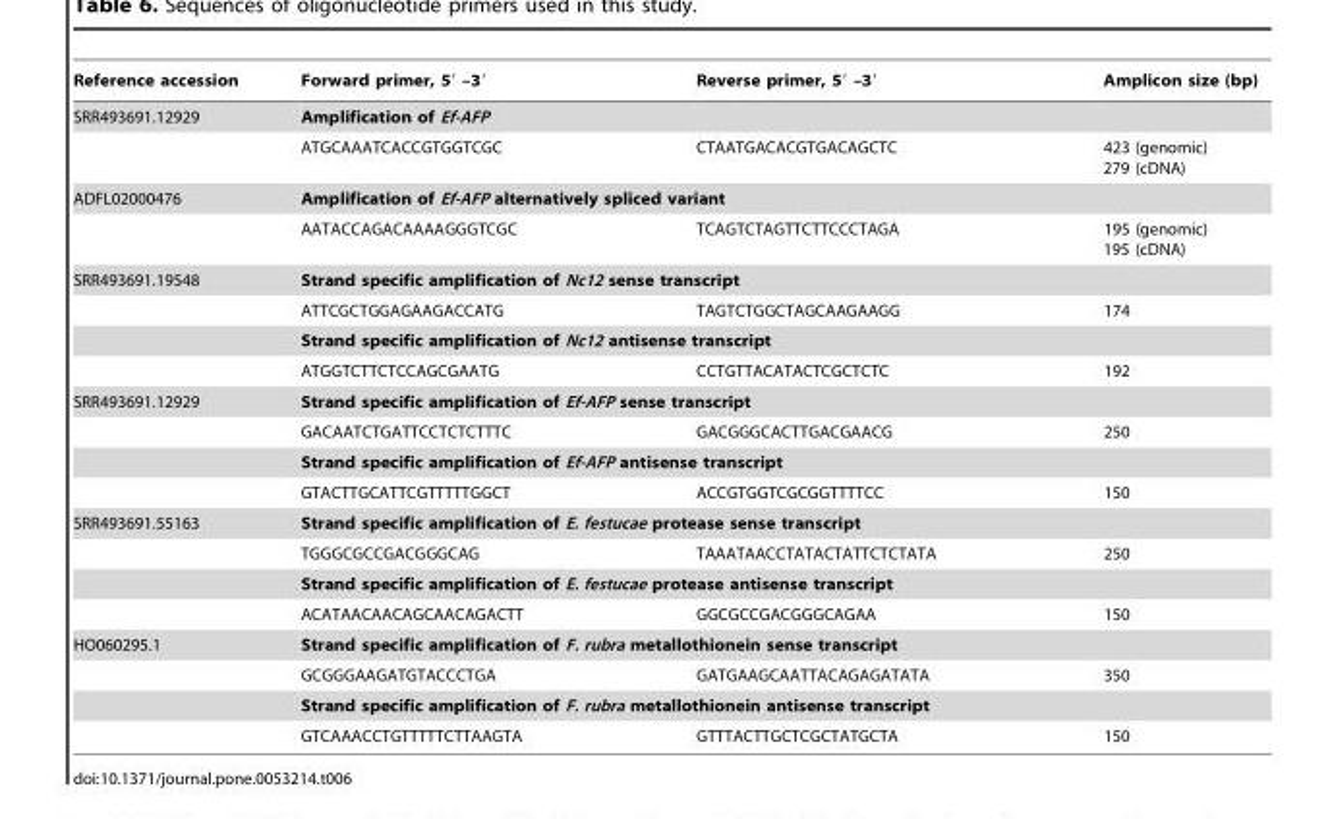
<table><thead><tr><td>Reference accession</td><td>Forward primer, 5′ –3′</td><td>Reverse primer, 5′ –3′</td><td>Amplicon size (bp)</td></tr></thead><tbody><tr><td rowspan="2">SRR493691.12929</td><td colspan="3">Amplification of Ef-AFP</td></tr><tr><td>ATGCAAATCACCGTGGTCGC</td><td>CTAATGACACGTGACAGCTC</td><td>423 (genomic) 279 (cDNA)</td></tr><tr><td rowspan="2">ADFL02000476</td><td colspan="3">Amplification of Ef-AFP alternatively spliced variant</td></tr><tr><td>AATACCAGACAAAAGGGTCGC</td><td>TCAGTCTAGTTCTTCCCTAGA</td><td>195 (genomic) 195 (cDNA)</td></tr><tr><td rowspan="4">SRR493691.19548</td><td colspan="3">Strand specific amplification of Nc12 sense transcript</td></tr><tr><td>ATTCGCTGGAGAAGACCATG</td><td>TAGTCTGGCTAGCAAGAAGG</td><td>174</td></tr><tr><td colspan="3">Strand specific amplification of Nc12 antisense transcript</td></tr><tr><td>ATGGTCTTCTCCAGCGAATG</td><td>CCTGTTACATACTCGCTCTC</td><td>192</td></tr><tr><td rowspan="4">SRR493691.12929</td><td colspan="3">Strand specific amplification of Ef-AFP sense transcript</td></tr><tr><td>GACAATCTGATTCCTCTCTTTC</td><td>GACGGGCACTTGACGAACG</td><td>250</td></tr><tr><td colspan="3">Strand specific amplification of Ef-AFP antisense transcript</td></tr><tr><td>GTACTTGCATTCGTTTTTGGCT</td><td>ACCGTGGTCGCGGTTTTCC</td><td>150</td></tr><tr><td rowspan="4">SRR493691.55163</td><td colspan="3">Strand specific amplification of E. festucae protease sense transcript</td></tr><tr><td>TGGGCGCCGACGGGCAG</td><td>TAAATAACCTATACTATTCTCTATA</td><td>250</td></tr><tr><td colspan="3">Strand specific amplification of E. festucae protease antisense transcript</td></tr><tr><td>ACATAACAACAGCAACAGACTT</td><td>GGCGCCGACGGGCAGAA</td><td>150</td></tr><tr><td rowspan="4">HO060295.1</td><td colspan="3">Strand specific amplification of F. rubra metallothionein sense transcript</td></tr><tr><td>GCGGGAAGATGTACCCTGA</td><td>GATGAAGCAATTACAGAGATATA</td><td>350</td></tr><tr><td colspan="3">Strand specific amplification of F. rubra metallothionein antisense transcript</td></tr><tr><td>GTCAAACCTGTTTTTCTTAAGTA</td><td>GTTTACTTGCTCGCTATGCTA</td><td>150</td></tr></tbody></table>